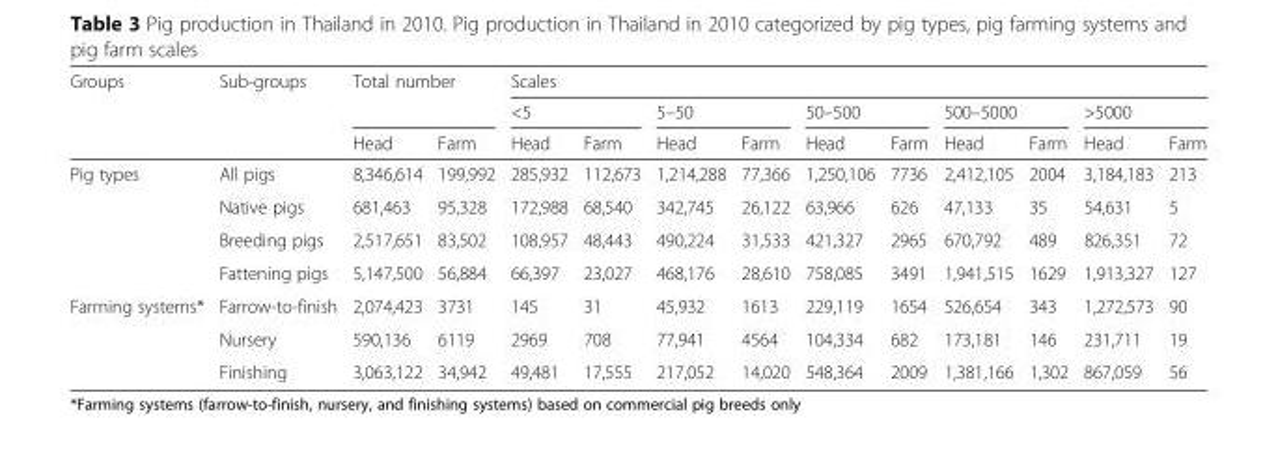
<table><thead><tr><td rowspan="3">Groups</td><td rowspan="3">Sub-groups</td><td rowspan="2" colspan="2">Total number</td><td colspan="10">Scales</td></tr><tr><td colspan="2">&lt;5</td><td colspan="2">5–50</td><td colspan="2">50–500</td><td colspan="2">500–5000</td><td colspan="2">&gt;5000</td></tr><tr><td>Head</td><td>Farm</td><td>Head</td><td>Farm</td><td>Head</td><td>Farm</td><td>Head</td><td>Farm</td><td>Head</td><td>Farm</td><td>Head</td><td>Farm</td></tr></thead><tbody><tr><td rowspan="4">Pig types</td><td>All pigs</td><td>8,346,614</td><td>199,992</td><td>285,932</td><td>112,673</td><td>1,214,288</td><td>77,366</td><td>1,250,106</td><td>7736</td><td>2,412,105</td><td>2004</td><td>3,184,183</td><td>213</td></tr><tr><td>Native pigs</td><td>681,463</td><td>95,328</td><td>172,988</td><td>68,540</td><td>342,745</td><td>26,122</td><td>63,966</td><td>626</td><td>47,133</td><td>35</td><td>54,631</td><td>5</td></tr><tr><td>Breeding pigs</td><td>2,517,651</td><td>83,502</td><td>108,957</td><td>48,443</td><td>490,224</td><td>31,533</td><td>421,327</td><td>2965</td><td>670,792</td><td>489</td><td>826,351</td><td>72</td></tr><tr><td>Fattening pigs</td><td>5,147,500</td><td>56,884</td><td>66,397</td><td>23,027</td><td>468,176</td><td>28,610</td><td>758,085</td><td>3491</td><td>1,941,515</td><td>1629</td><td>1,913,327</td><td>127</td></tr><tr><td rowspan="3">Farming systems*</td><td>Farrow-to-finish</td><td>2,074,423</td><td>3731</td><td>145</td><td>31</td><td>45,932</td><td>1613</td><td>229,119</td><td>1654</td><td>526,654</td><td>343</td><td>1,272,573</td><td>90</td></tr><tr><td>Nursery</td><td>590,136</td><td>6119</td><td>2969</td><td>708</td><td>77,941</td><td>4564</td><td>104,334</td><td>682</td><td>173,181</td><td>146</td><td>231,711</td><td>19</td></tr><tr><td>Finishing</td><td>3,063,122</td><td>34,942</td><td>49,481</td><td>17,555</td><td>217,052</td><td>14,020</td><td>548,364</td><td>2009</td><td>1,381,166</td><td>1,302</td><td>867,059</td><td>56</td></tr></tbody></table>